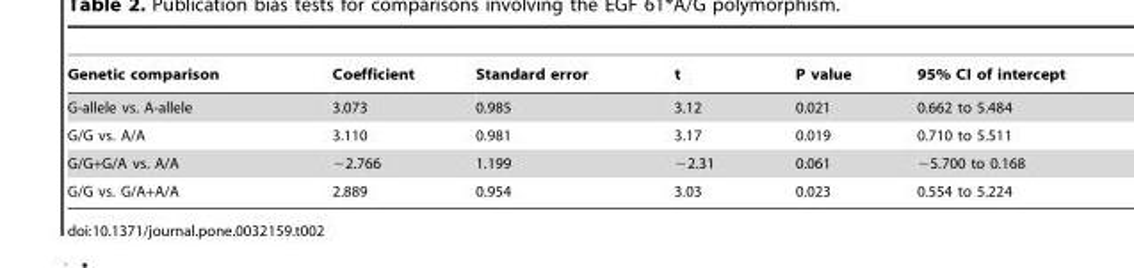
<table><thead><tr><td>Genetic comparison</td><td>Coefficient</td><td>Standard error</td><td>t</td><td>P value</td><td>95% CI of intercept</td></tr></thead><tbody><tr><td>G-allele vs. A-allele</td><td>3.073</td><td>0.985</td><td>3.12</td><td>0.021</td><td>0.662 to 5.484</td></tr><tr><td>G/G vs. A/A</td><td>3.110</td><td>0.981</td><td>3.17</td><td>0.019</td><td>0.710 to 5.511</td></tr><tr><td>G/G+G/A vs. A/A</td><td>−2.766</td><td>1.199</td><td>−2.31</td><td>0.061</td><td>−5.700 to 0.168</td></tr><tr><td>G/G vs. G/A+A/A</td><td>2.889</td><td>0.954</td><td>3.03</td><td>0.023</td><td>0.554 to 5.224</td></tr></tbody></table>